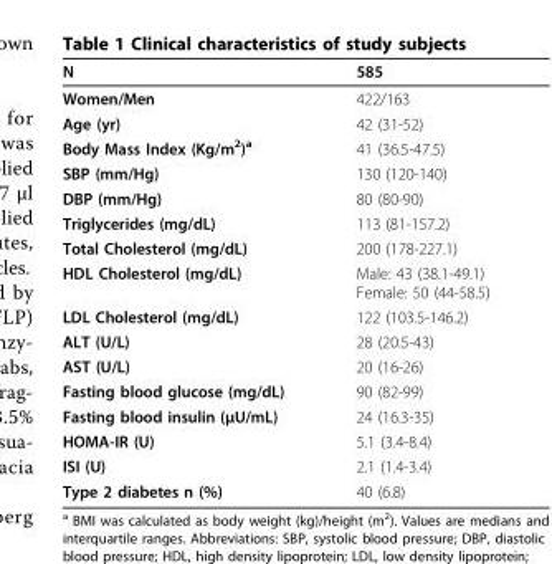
<table><thead><tr><td>N</td><td>585</td></tr></thead><tbody><tr><td>Women/Men</td><td>422/163</td></tr><tr><td>Age (yr)</td><td>42 (31-52)</td></tr><tr><td>Body Mass Index (Kg/m<sup>2</sup>)<sup>a</sup></td><td>41 (36.5-47.5)</td></tr><tr><td>SBP (mm/Hg)</td><td>130 (120-140)</td></tr><tr><td>DBP (mm/Hg)</td><td>80 (80-90)</td></tr><tr><td>Triglycerides (mg/dL)</td><td>113 (81-157.2)</td></tr><tr><td>Total Cholesterol (mg/dL)</td><td>200 (178-227.1)</td></tr><tr><td>HDL Cholesterol (mg/dL)</td><td>Male: 43 (38.1-49.1) Female: 50 (44-58.5)</td></tr><tr><td>LDL Cholesterol (mg/dL)</td><td>122 (103.5-146.2)</td></tr><tr><td>ALT (U/L)</td><td>28 (20.5-43)</td></tr><tr><td>AST (U/L)</td><td>20 (16-26)</td></tr><tr><td>Fasting blood glucose (mg/dL)</td><td>90 (82-99)</td></tr><tr><td>Fasting blood insulin (μU/mL)</td><td>24 (16.3-35)</td></tr><tr><td>HOMA-IR (U)</td><td>5.1 (3.4-8.4)</td></tr><tr><td>ISI (U)</td><td>2.1 (1.4-3.4)</td></tr><tr><td>Type 2 diabetes n (%)</td><td>40 (6.8)</td></tr></tbody></table>